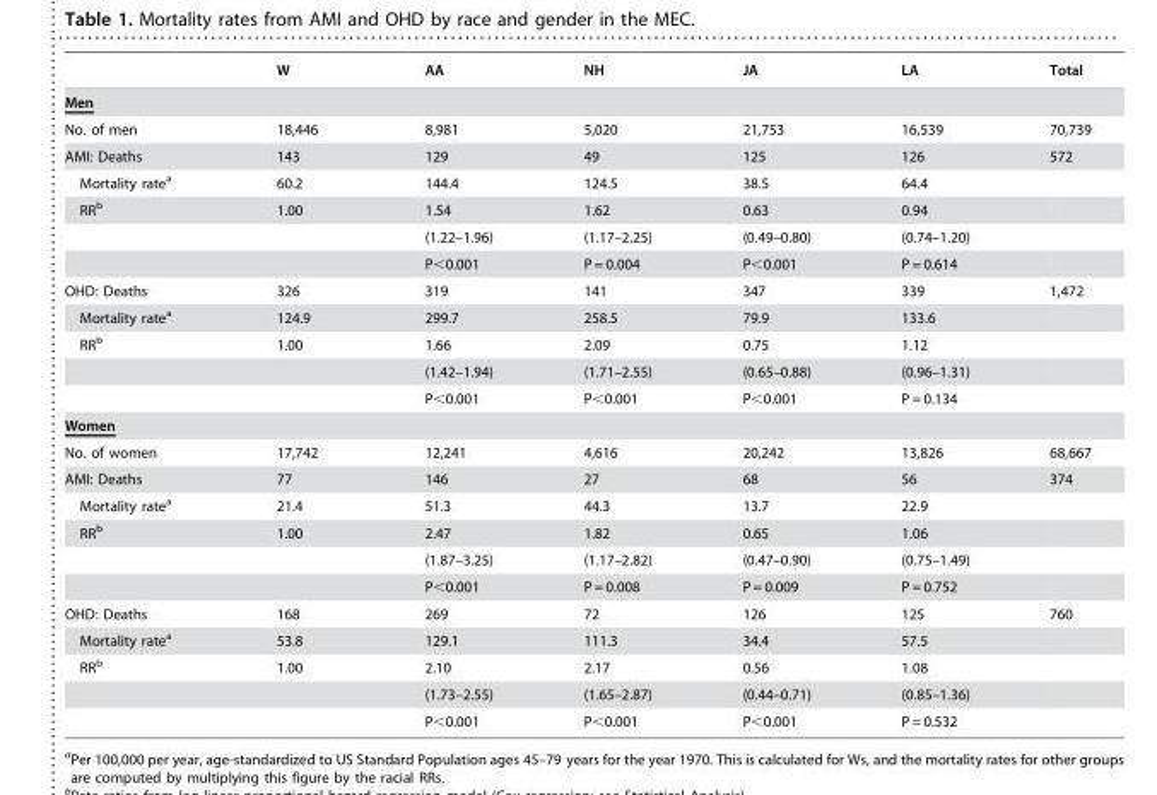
<table><thead><tr><td></td><td>W</td><td>AA</td><td>NH</td><td>JA</td><td>LA</td><td>Total</td></tr></thead><tbody><tr><td colspan="7">Men</td></tr><tr><td>No. of men</td><td>18,446</td><td>8,981</td><td>5,020</td><td>21,753</td><td>16,539</td><td>70,739</td></tr><tr><td>AMI: Deaths</td><td>143</td><td>129</td><td>49</td><td>125</td><td>126</td><td>572</td></tr><tr><td>Mortality rate<sup>a</sup></td><td>60.2</td><td>144.4</td><td>124.5</td><td>38.5</td><td>64.4</td><td></td></tr><tr><td rowspan="3">RR<sup>b</sup></td><td>1.00</td><td>1.54</td><td>1.62</td><td>0.63</td><td>0.94</td><td></td></tr><tr><td></td><td>(1.22–1.96)</td><td>(1.17–2.25)</td><td>(0.49–0.80)</td><td>(0.74–1.20)</td><td></td></tr><tr><td></td><td>P&lt;0.001</td><td>P = 0.004</td><td>P&lt;0.001</td><td>P = 0.614</td><td></td></tr><tr><td>OHD: Deaths</td><td>326</td><td>319</td><td>141</td><td>347</td><td>339</td><td>1,472</td></tr><tr><td>Mortality rate<sup>a</sup></td><td>124.9</td><td>299.7</td><td>258.5</td><td>79.9</td><td>133.6</td><td></td></tr><tr><td rowspan="3">RR<sup>b</sup></td><td>1.00</td><td>1.66</td><td>2.09</td><td>0.75</td><td>1.12</td><td></td></tr><tr><td></td><td>(1.42–1.94)</td><td>(1.71–2.55)</td><td>(0.65–0.88)</td><td>(0.96–1.31)</td><td></td></tr><tr><td></td><td>P&lt;0.001</td><td>P&lt;0.001</td><td>P&lt;0.001</td><td>P = 0.134</td><td></td></tr><tr><td colspan="7">Women</td></tr><tr><td>No. of women</td><td>17,742</td><td>12,241</td><td>4,616</td><td>20,242</td><td>13,826</td><td>68,667</td></tr><tr><td>AMI: Deaths</td><td>77</td><td>146</td><td>27</td><td>68</td><td>56</td><td>374</td></tr><tr><td>Mortality rate<sup>a</sup></td><td>21.4</td><td>51.3</td><td>44.3</td><td>13.7</td><td>22.9</td><td></td></tr><tr><td rowspan="3">RR<sup>b</sup></td><td>1.00</td><td>2.47</td><td>1.82</td><td>0.65</td><td>1.06</td><td></td></tr><tr><td></td><td>(1.87–3.25)</td><td>(1.17–2.82)</td><td>(0.47–0.90)</td><td>(0.75–1.49)</td><td></td></tr><tr><td></td><td>P&lt;0.001</td><td>P = 0.008</td><td>P = 0.009</td><td>P = 0.752</td><td></td></tr><tr><td>OHD: Deaths</td><td>168</td><td>269</td><td>72</td><td>126</td><td>125</td><td>760</td></tr><tr><td>Mortality rate<sup>a</sup></td><td>53.8</td><td>129.1</td><td>111.3</td><td>34.4</td><td>57.5</td><td></td></tr><tr><td rowspan="3">RR<sup>b</sup></td><td>1.00</td><td>2.10</td><td>2.17</td><td>0.56</td><td>1.08</td><td></td></tr><tr><td></td><td>(1.73–2.55)</td><td>(1.65–2.87)</td><td>(0.44–0.71)</td><td>(0.85–1.36)</td><td></td></tr><tr><td></td><td>P&lt;0.001</td><td>P&lt;0.001</td><td>P&lt;0.001</td><td>P = 0.532</td><td></td></tr></tbody></table>